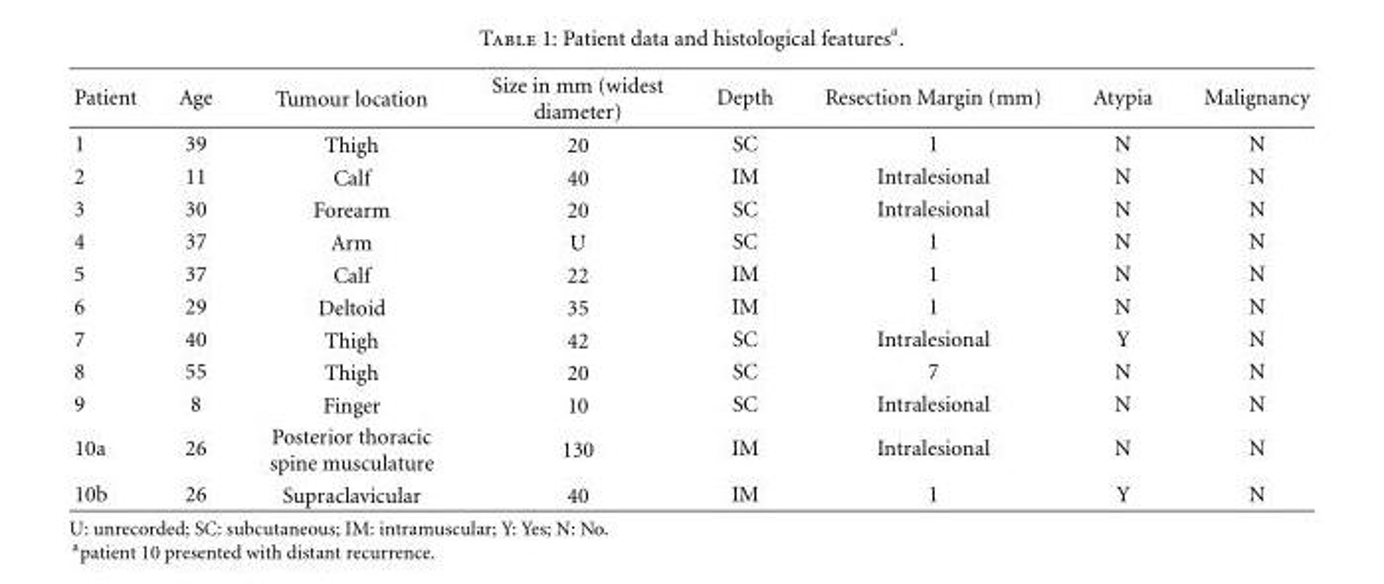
<table><thead><tr><td>Patient</td><td>Age</td><td>Tumour location</td><td>Size in mm (widest diameter)</td><td>Depth</td><td>Resection Margin (mm)</td><td>Atypia</td><td>Malignancy</td></tr></thead><tbody><tr><td>1</td><td>39</td><td>Thigh</td><td>20</td><td>SC</td><td>1</td><td>N</td><td>N</td></tr><tr><td>2</td><td>11</td><td>Calf</td><td>40</td><td>IM</td><td>Intralesional</td><td>N</td><td>N</td></tr><tr><td>3</td><td>30</td><td>Forearm</td><td>20</td><td>SC</td><td>Intralesional</td><td>N</td><td>N</td></tr><tr><td>4</td><td>37</td><td>Arm</td><td>U</td><td>SC</td><td>1</td><td>N</td><td>N</td></tr><tr><td>5</td><td>37</td><td>Calf</td><td>22</td><td>IM</td><td>1</td><td>N</td><td>N</td></tr><tr><td>6</td><td>29</td><td>Deltoid</td><td>35</td><td>IM</td><td>1</td><td>N</td><td>N</td></tr><tr><td>7</td><td>40</td><td>Thigh</td><td>42</td><td>SC</td><td>Intralesional</td><td>Y</td><td>N</td></tr><tr><td>8</td><td>55</td><td>Thigh</td><td>20</td><td>SC</td><td>7</td><td>N</td><td>N</td></tr><tr><td>9</td><td>8</td><td>Finger</td><td>10</td><td>SC</td><td>Intralesional</td><td>N</td><td>N</td></tr><tr><td>10a</td><td>26</td><td>Posterior thoracic spine musculature</td><td>130</td><td>IM</td><td>Intralesional</td><td>N</td><td>N</td></tr><tr><td>10b</td><td>26</td><td>Supraclavicular</td><td>40</td><td>IM</td><td>1</td><td>Y</td><td>N</td></tr></tbody></table>